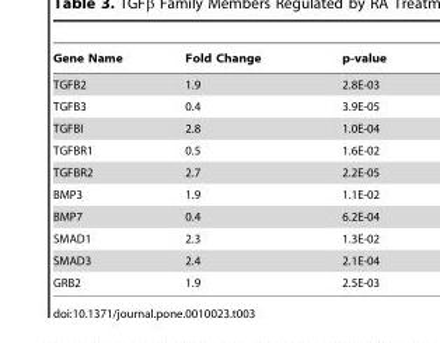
<table><thead><tr><td>Gene Name</td><td>Fold Change</td><td>p-value</td></tr></thead><tbody><tr><td>TGFB2</td><td>1.9</td><td>2.8E-03</td></tr><tr><td>TGFB3</td><td>0.4</td><td>3.9E-05</td></tr><tr><td>TGFBI</td><td>2.8</td><td>1.0E-04</td></tr><tr><td>TGFBR1</td><td>0.5</td><td>1.6E-02</td></tr><tr><td>TGFBR2</td><td>2.7</td><td>2.2E-05</td></tr><tr><td>BMP3</td><td>1.9</td><td>1.1E-02</td></tr><tr><td>BMP7</td><td>0.4</td><td>6.2E-04</td></tr><tr><td>SMAD1</td><td>2.3</td><td>1.3E-02</td></tr><tr><td>SMAD3</td><td>2.4</td><td>2.1E-04</td></tr><tr><td>GRB2</td><td>1.9</td><td>2.5E-03</td></tr></tbody></table>